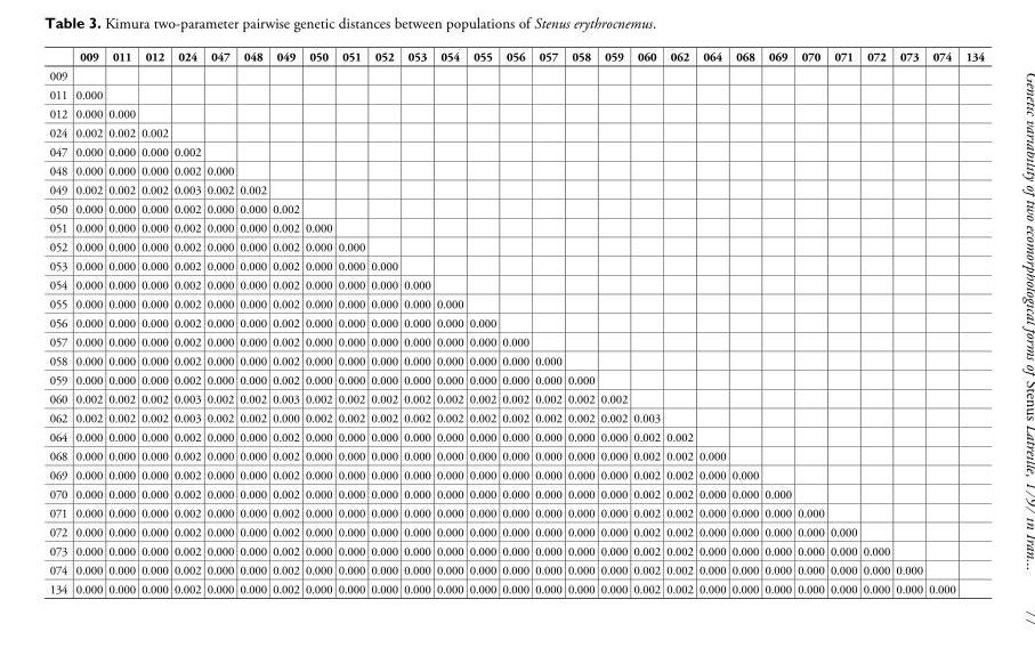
<table><thead><tr><td></td><td>009</td><td>011</td><td>012</td><td>024</td><td>047</td><td>048</td><td>049</td><td>050</td><td>051</td><td>052</td><td>053</td><td>054</td><td>055</td><td>056</td><td>057</td><td>058</td><td>059</td><td>060</td><td>062</td><td>064</td><td>068</td><td>069</td><td>070</td><td>071</td><td>072</td><td>073</td><td>074</td><td>134</td></tr></thead><tbody><tr><td colspan="29">009</td></tr><tr><td>011</td><td>0.000</td><td></td><td></td><td></td><td></td><td></td><td></td><td></td><td></td><td></td><td></td><td></td><td></td><td></td><td></td><td></td><td></td><td></td><td></td><td></td><td></td><td></td><td></td><td></td><td></td><td></td><td></td><td></td></tr><tr><td>012</td><td>0.000</td><td>0.000</td><td></td><td></td><td></td><td></td><td></td><td></td><td></td><td></td><td></td><td></td><td></td><td></td><td></td><td></td><td></td><td></td><td></td><td></td><td></td><td></td><td></td><td></td><td></td><td></td><td></td><td></td></tr><tr><td>024</td><td>0.002</td><td>0.002</td><td>0.002</td><td></td><td></td><td></td><td></td><td></td><td></td><td></td><td></td><td></td><td></td><td></td><td></td><td></td><td></td><td></td><td></td><td></td><td></td><td></td><td></td><td></td><td></td><td></td><td></td><td></td></tr><tr><td>047</td><td>0.000</td><td>0.000</td><td>0.000</td><td>0.002</td><td></td><td></td><td></td><td></td><td></td><td></td><td></td><td></td><td></td><td></td><td></td><td></td><td></td><td></td><td></td><td></td><td></td><td></td><td></td><td></td><td></td><td></td><td></td><td></td></tr><tr><td>048</td><td>0.000</td><td>0.000</td><td>0.000</td><td>0.002</td><td>0.000</td><td></td><td></td><td></td><td></td><td></td><td></td><td></td><td></td><td></td><td></td><td></td><td></td><td></td><td></td><td></td><td></td><td></td><td></td><td></td><td></td><td></td><td></td><td></td></tr><tr><td>049</td><td>0.002</td><td>0.002</td><td>0.002</td><td>0.003</td><td>0.002</td><td>0.002</td><td></td><td></td><td></td><td></td><td></td><td></td><td></td><td></td><td></td><td></td><td></td><td></td><td></td><td></td><td></td><td></td><td></td><td></td><td></td><td></td><td></td><td></td></tr><tr><td>050</td><td>0.000</td><td>0.000</td><td>0.000</td><td>0.002</td><td>0.000</td><td>0.000</td><td>0.002</td><td></td><td></td><td></td><td></td><td></td><td></td><td></td><td></td><td></td><td></td><td></td><td></td><td></td><td></td><td></td><td></td><td></td><td></td><td></td><td></td><td></td></tr><tr><td>051</td><td>0.000</td><td>0.000</td><td>0.000</td><td>0.002</td><td>0.000</td><td>0.000</td><td>0.002</td><td>0.000</td><td></td><td></td><td></td><td></td><td></td><td></td><td></td><td></td><td></td><td></td><td></td><td></td><td></td><td></td><td></td><td></td><td></td><td></td><td></td><td></td></tr><tr><td>052</td><td>0.000</td><td>0.000</td><td>0.000</td><td>0.002</td><td>0.000</td><td>0.000</td><td>0.002</td><td>0.000</td><td>0.000</td><td></td><td></td><td></td><td></td><td></td><td></td><td></td><td></td><td></td><td></td><td></td><td></td><td></td><td></td><td></td><td></td><td></td><td></td><td></td></tr><tr><td>053</td><td>0.000</td><td>0.000</td><td>0.000</td><td>0.002</td><td>0.000</td><td>0.000</td><td>0.002</td><td>0.000</td><td>0.000</td><td>0.000</td><td></td><td></td><td></td><td></td><td></td><td></td><td></td><td></td><td></td><td></td><td></td><td></td><td></td><td></td><td></td><td></td><td></td><td></td></tr><tr><td>054</td><td>0.000</td><td>0.000</td><td>0.000</td><td>0.002</td><td>0.000</td><td>0.000</td><td>0.002</td><td>0.000</td><td>0.000</td><td>0.000</td><td>0.000</td><td></td><td></td><td></td><td></td><td></td><td></td><td></td><td></td><td></td><td></td><td></td><td></td><td></td><td></td><td></td><td></td><td></td></tr><tr><td>055</td><td>0.000</td><td>0.000</td><td>0.000</td><td>0.002</td><td>0.000</td><td>0.000</td><td>0.002</td><td>0.000</td><td>0.000</td><td>0.000</td><td>0.000</td><td>0.000</td><td></td><td></td><td></td><td></td><td></td><td></td><td></td><td></td><td></td><td></td><td></td><td></td><td></td><td></td><td></td><td></td></tr><tr><td>056</td><td>0.000</td><td>0.000</td><td>0.000</td><td>0.002</td><td>0.000</td><td>0.000</td><td>0.002</td><td>0.000</td><td>0.000</td><td>0.000</td><td>0.000</td><td>0.000</td><td>0.000</td><td></td><td></td><td></td><td></td><td></td><td></td><td></td><td></td><td></td><td></td><td></td><td></td><td></td><td></td><td></td></tr><tr><td>057</td><td>0.000</td><td>0.000</td><td>0.000</td><td>0.002</td><td>0.000</td><td>0.000</td><td>0.002</td><td>0.000</td><td>0.000</td><td>0.000</td><td>0.000</td><td>0.000</td><td>0.000</td><td>0.000</td><td></td><td></td><td></td><td></td><td></td><td></td><td></td><td></td><td></td><td></td><td></td><td></td><td></td><td></td></tr><tr><td>058</td><td>0.000</td><td>0.000</td><td>0.000</td><td>0.002</td><td>0.000</td><td>0.000</td><td>0.002</td><td>0.000</td><td>0.000</td><td>0.000</td><td>0.000</td><td>0.000</td><td>0.000</td><td>0.000</td><td>0.000</td><td></td><td></td><td></td><td></td><td></td><td></td><td></td><td></td><td></td><td></td><td></td><td></td><td></td></tr><tr><td>059</td><td>0.000</td><td>0.000</td><td>0.000</td><td>0.002</td><td>0.000</td><td>0.000</td><td>0.002</td><td>0.000</td><td>0.000</td><td>0.000</td><td>0.000</td><td>0.000</td><td>0.000</td><td>0.000</td><td>0.000</td><td>0.000</td><td></td><td></td><td></td><td></td><td></td><td></td><td></td><td></td><td></td><td></td><td></td><td></td></tr><tr><td>060</td><td>0.002</td><td>0.002</td><td>0.002</td><td>0.003</td><td>0.002</td><td>0.002</td><td>0.003</td><td>0.002</td><td>0.002</td><td>0.002</td><td>0.002</td><td>0.002</td><td>0.002</td><td>0.002</td><td>0.002</td><td>0.002</td><td>0.002</td><td></td><td></td><td></td><td></td><td></td><td></td><td></td><td></td><td></td><td></td><td></td></tr><tr><td>062</td><td>0.002</td><td>0.002</td><td>0.002</td><td>0.003</td><td>0.002</td><td>0.002</td><td>0.000</td><td>0.002</td><td>0.002</td><td>0.002</td><td>0.002</td><td>0.002</td><td>0.002</td><td>0.002</td><td>0.002</td><td>0.002</td><td>0.002</td><td>0.003</td><td></td><td></td><td></td><td></td><td></td><td></td><td></td><td></td><td></td><td></td></tr><tr><td>064</td><td>0.000</td><td>0.000</td><td>0.000</td><td>0.002</td><td>0.000</td><td>0.000</td><td>0.002</td><td>0.000</td><td>0.000</td><td>0.000</td><td>0.000</td><td>0.000</td><td>0.000</td><td>0.000</td><td>0.000</td><td>0.000</td><td>0.000</td><td>0.002</td><td>0.002</td><td></td><td></td><td></td><td></td><td></td><td></td><td></td><td></td><td></td></tr><tr><td>068</td><td>0.000</td><td>0.000</td><td>0.000</td><td>0.002</td><td>0.000</td><td>0.000</td><td>0.002</td><td>0.000</td><td>0.000</td><td>0.000</td><td>0.000</td><td>0.000</td><td>0.000</td><td>0.000</td><td>0.000</td><td>0.000</td><td>0.000</td><td>0.002</td><td>0.002</td><td>0.000</td><td></td><td></td><td></td><td></td><td></td><td></td><td></td><td></td></tr><tr><td>069</td><td>0.000</td><td>0.000</td><td>0.000</td><td>0.002</td><td>0.000</td><td>0.000</td><td>0.002</td><td>0.000</td><td>0.000</td><td>0.000</td><td>0.000</td><td>0.000</td><td>0.000</td><td>0.000</td><td>0.000</td><td>0.000</td><td>0.000</td><td>0.002</td><td>0.002</td><td>0.000</td><td>0.000</td><td></td><td></td><td></td><td></td><td></td><td></td><td></td></tr><tr><td>070</td><td>0.000</td><td>0.000</td><td>0.000</td><td>0.002</td><td>0.000</td><td>0.000</td><td>0.002</td><td>0.000</td><td>0.000</td><td>0.000</td><td>0.000</td><td>0.000</td><td>0.000</td><td>0.000</td><td>0.000</td><td>0.000</td><td>0.000</td><td>0.002</td><td>0.002</td><td>0.000</td><td>0.000</td><td>0.000</td><td></td><td></td><td></td><td></td><td></td><td></td></tr><tr><td>071</td><td>0.000</td><td>0.000</td><td>0.000</td><td>0.002</td><td>0.000</td><td>0.000</td><td>0.002</td><td>0.000</td><td>0.000</td><td>0.000</td><td>0.000</td><td>0.000</td><td>0.000</td><td>0.000</td><td>0.000</td><td>0.000</td><td>0.000</td><td>0.002</td><td>0.002</td><td>0.000</td><td>0.000</td><td>0.000</td><td>0.000</td><td></td><td></td><td></td><td></td><td></td></tr><tr><td>072</td><td>0.000</td><td>0.000</td><td>0.000</td><td>0.002</td><td>0.000</td><td>0.000</td><td>0.002</td><td>0.000</td><td>0.000</td><td>0.000</td><td>0.000</td><td>0.000</td><td>0.000</td><td>0.000</td><td>0.000</td><td>0.000</td><td>0.000</td><td>0.002</td><td>0.002</td><td>0.000</td><td>0.000</td><td>0.000</td><td>0.000</td><td>0.000</td><td></td><td></td><td></td><td></td></tr><tr><td>073</td><td>0.000</td><td>0.000</td><td>0.000</td><td>0.002</td><td>0.000</td><td>0.000</td><td>0.002</td><td>0.000</td><td>0.000</td><td>0.000</td><td>0.000</td><td>0.000</td><td>0.000</td><td>0.000</td><td>0.000</td><td>0.000</td><td>0.000</td><td>0.002</td><td>0.002</td><td>0.000</td><td>0.000</td><td>0.000</td><td>0.000</td><td>0.000</td><td>0.000</td><td></td><td></td><td></td></tr><tr><td>074</td><td>0.000</td><td>0.000</td><td>0.000</td><td>0.002</td><td>0.000</td><td>0.000</td><td>0.002</td><td>0.000</td><td>0.000</td><td>0.000</td><td>0.000</td><td>0.000</td><td>0.000</td><td>0.000</td><td>0.000</td><td>0.000</td><td>0.000</td><td>0.002</td><td>0.002</td><td>0.000</td><td>0.000</td><td>0.000</td><td>0.000</td><td>0.000</td><td>0.000</td><td>0.000</td><td></td><td></td></tr><tr><td>134</td><td>0.000</td><td>0.000</td><td>0.000</td><td>0.002</td><td>0.000</td><td>0.000</td><td>0.002</td><td>0.000</td><td>0.000</td><td>0.000</td><td>0.000</td><td>0.000</td><td>0.000</td><td>0.000</td><td>0.000</td><td>0.000</td><td>0.000</td><td>0.002</td><td>0.002</td><td>0.000</td><td>0.000</td><td>0.000</td><td>0.000</td><td>0.000</td><td>0.000</td><td>0.000</td><td>0.000</td><td></td></tr></tbody></table>